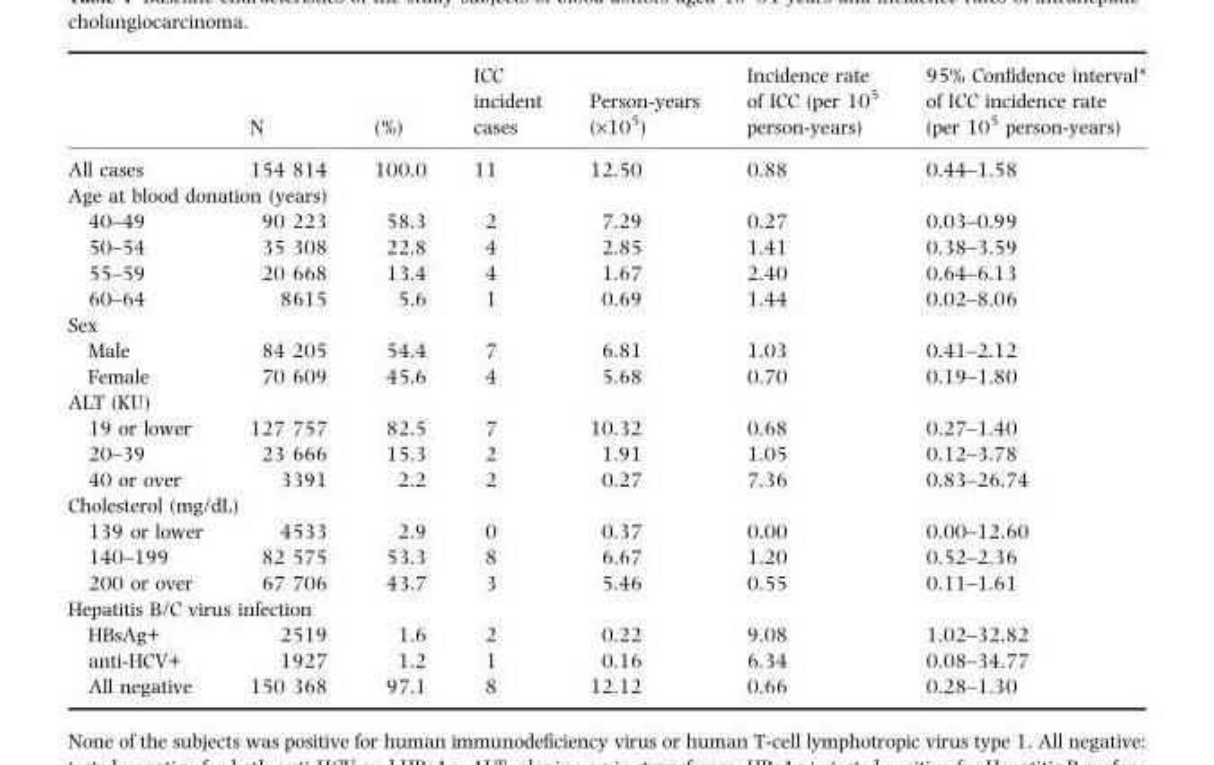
<table><thead><tr><td></td><td>N</td><td>(%)</td><td>ICC incident cases</td><td>Person-years (×10<sup>5</sup>)</td><td>Incidence rate of ICC (per 10<sup>5</sup> person-years)</td><td>95% Confidence interval* of ICC incidence rate (per 10<sup>5</sup> person-years)</td></tr></thead><tbody><tr><td>All cases</td><td>154 814</td><td>100.0</td><td>11</td><td>12.50</td><td>0.88</td><td>0.44–1.58</td></tr><tr><td colspan="7">Age at blood donation (years)</td></tr><tr><td>40–49</td><td>90 223</td><td>58.3</td><td>2</td><td>7.29</td><td>0.27</td><td>0.03–0.99</td></tr><tr><td>50–54</td><td>35 308</td><td>22.8</td><td>4</td><td>2.85</td><td>1.41</td><td>0.38–3.59</td></tr><tr><td>55–59</td><td>20 668</td><td>13.4</td><td>4</td><td>1.67</td><td>2.40</td><td>0.64–6.13</td></tr><tr><td>60–64</td><td>8615</td><td>5.6</td><td>1</td><td>0.69</td><td>1.44</td><td>0.02–8.06</td></tr><tr><td colspan="7">Sex</td></tr><tr><td>Male</td><td>84 205</td><td>54.4</td><td>7</td><td>6.81</td><td>1.03</td><td>0.41–2.12</td></tr><tr><td>Female</td><td>70 609</td><td>45.6</td><td>4</td><td>5.68</td><td>0.70</td><td>0.19–1.80</td></tr><tr><td colspan="7">ALT (KU)</td></tr><tr><td>19 or lower</td><td>127 757</td><td>82.5</td><td>7</td><td>10.32</td><td>0.68</td><td>0.27–1.40</td></tr><tr><td>20–39</td><td>23 666</td><td>15.3</td><td>2</td><td>1.91</td><td>1.05</td><td>0.12–3.78</td></tr><tr><td>40 or over</td><td>3391</td><td>2.2</td><td>2</td><td>0.27</td><td>7.36</td><td>0.83–26.74</td></tr><tr><td colspan="7">Cholesterol (mg/dL)</td></tr><tr><td>139 or lower</td><td>4533</td><td>2.9</td><td>0</td><td>0.37</td><td>0.00</td><td>0.00–12.60</td></tr><tr><td>140–199</td><td>82 575</td><td>53.3</td><td>8</td><td>6.67</td><td>1.20</td><td>0.52–2.36</td></tr><tr><td>200 or over</td><td>67 706</td><td>43.7</td><td>3</td><td>5.46</td><td>0.55</td><td>0.11–1.61</td></tr><tr><td colspan="7">Hepatitis B/C virus infection</td></tr><tr><td>HBsAg+</td><td>2519</td><td>1.6</td><td>2</td><td>0.22</td><td>9.08</td><td>1.02–32.82</td></tr><tr><td>anti-HCV+</td><td>1927</td><td>1.2</td><td>1</td><td>0.16</td><td>6.34</td><td>0.08–34.77</td></tr><tr><td>All negative</td><td>150 368</td><td>97.1</td><td>8</td><td>12.12</td><td>0.66</td><td>0.28–1.30</td></tr></tbody></table>